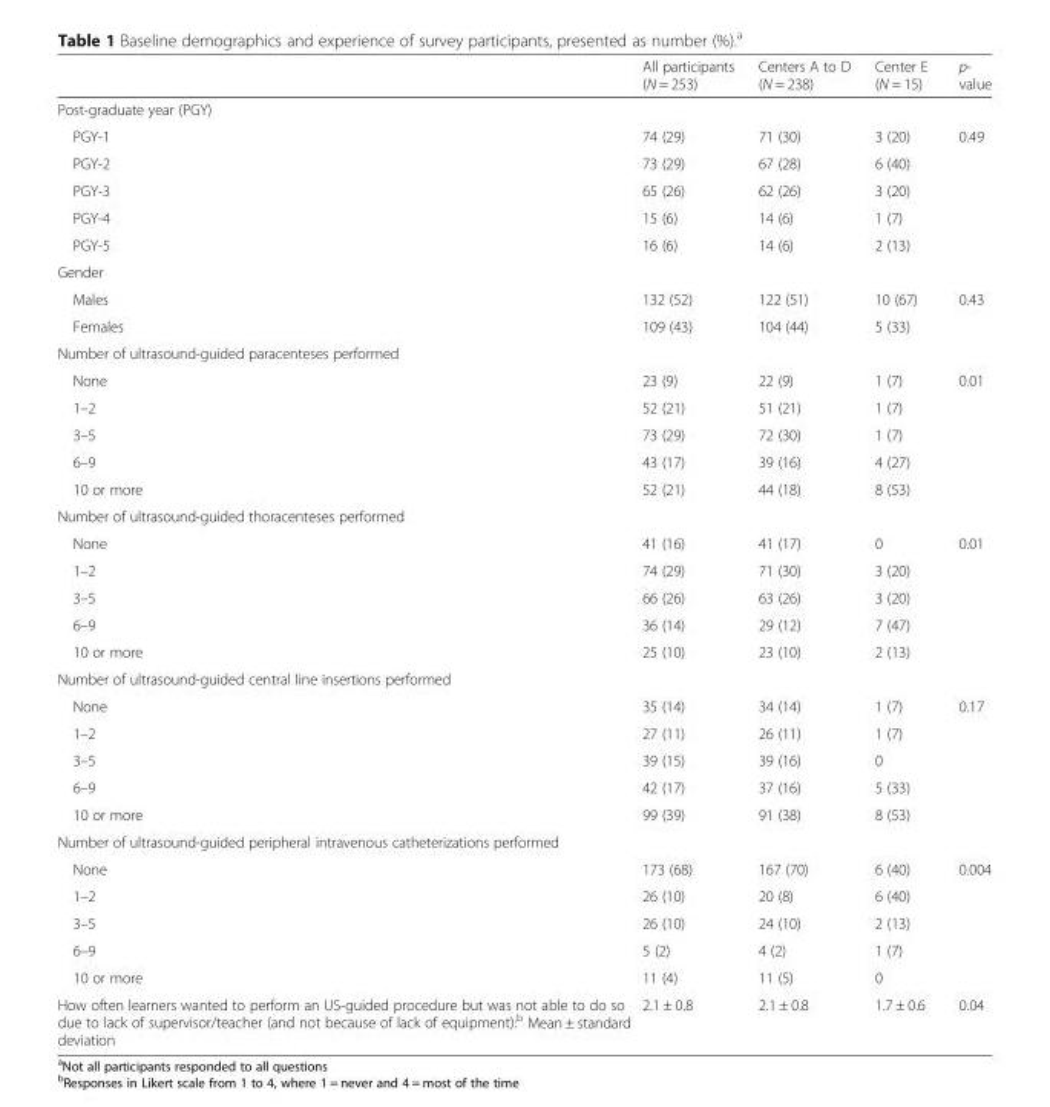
<table><thead><tr><td></td><td>All participants (N = 253)</td><td>Centers A to D (N = 238)</td><td>Center E (N = 15)</td><td>p- value</td></tr></thead><tbody><tr><td colspan="5">Post-graduate year (PGY)</td></tr><tr><td>PGY-1</td><td>74 (29)</td><td>71 (30)</td><td>3 (20)</td><td>0.49</td></tr><tr><td>PGY-2</td><td>73 (29)</td><td>67 (28)</td><td>6 (40)</td><td></td></tr><tr><td>PGY-3</td><td>65 (26)</td><td>62 (26)</td><td>3 (20)</td><td></td></tr><tr><td>PGY-4</td><td>15 (6)</td><td>14 (6)</td><td>1 (7)</td><td></td></tr><tr><td>PGY-5</td><td>16 (6)</td><td>14 (6)</td><td>2 (13)</td><td></td></tr><tr><td colspan="5">Gender</td></tr><tr><td>Males</td><td>132 (52)</td><td>122 (51)</td><td>10 (67)</td><td>0.43</td></tr><tr><td>Females</td><td>109 (43)</td><td>104 (44)</td><td>5 (33)</td><td></td></tr><tr><td colspan="5">Number of ultrasound-guided paracenteses performed</td></tr><tr><td>None</td><td>23 (9)</td><td>22 (9)</td><td>1 (7)</td><td>0.01</td></tr><tr><td>1–2</td><td>52 (21)</td><td>51 (21)</td><td>1 (7)</td><td></td></tr><tr><td>3–5</td><td>73 (29)</td><td>72 (30)</td><td>1 (7)</td><td></td></tr><tr><td>6–9</td><td>43 (17)</td><td>39 (16)</td><td>4 (27)</td><td></td></tr><tr><td>10 or more</td><td>52 (21)</td><td>44 (18)</td><td>8 (53)</td><td></td></tr><tr><td colspan="5">Number of ultrasound-guided thoracenteses performed</td></tr><tr><td>None</td><td>41 (16)</td><td>41 (17)</td><td>0</td><td>0.01</td></tr><tr><td>1–2</td><td>74 (29)</td><td>71 (30)</td><td>3 (20)</td><td></td></tr><tr><td>3–5</td><td>66 (26)</td><td>63 (26)</td><td>3 (20)</td><td></td></tr><tr><td>6–9</td><td>36 (14)</td><td>29 (12)</td><td>7 (47)</td><td></td></tr><tr><td>10 or more</td><td>25 (10)</td><td>23 (10)</td><td>2 (13)</td><td></td></tr><tr><td colspan="5">Number of ultrasound-guided central line insertions performed</td></tr><tr><td>None</td><td>35 (14)</td><td>34 (14)</td><td>1 (7)</td><td>0.17</td></tr><tr><td>1–2</td><td>27 (11)</td><td>26 (11)</td><td>1 (7)</td><td></td></tr><tr><td>3–5</td><td>39 (15)</td><td>39 (16)</td><td>0</td><td></td></tr><tr><td>6–9</td><td>42 (17)</td><td>37 (16)</td><td>5 (33)</td><td></td></tr><tr><td>10 or more</td><td>99 (39)</td><td>91 (38)</td><td>8 (53)</td><td></td></tr><tr><td colspan="5">Number of ultrasound-guided peripheral intravenous catheterizations performed</td></tr><tr><td>None</td><td>173 (68)</td><td>167 (70)</td><td>6 (40)</td><td>0.004</td></tr><tr><td>1–2</td><td>26 (10)</td><td>20 (8)</td><td>6 (40)</td><td></td></tr><tr><td>3–5</td><td>26 (10)</td><td>24 (10)</td><td>2 (13)</td><td></td></tr><tr><td>6–9</td><td>5 (2)</td><td>4 (2)</td><td>1 (7)</td><td></td></tr><tr><td>10 or more</td><td>11 (4)</td><td>11 (5)</td><td>0</td><td></td></tr><tr><td>How often learners wanted to perform an US-guided procedure but was not able to do so due to lack of supervisor/teacher (and not because of lack of equipment):<sup>b</sup> Mean ± standard deviation</td><td>2.1 ± 0.8</td><td>2.1 ± 0.8</td><td>1.7 ± 0.6</td><td>0.04</td></tr></tbody></table>